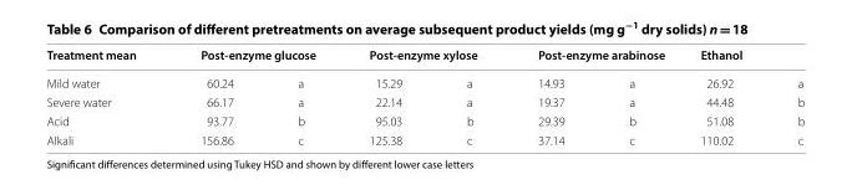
<table><thead><tr><td rowspan="2">Treatment mean Mild water</td><td colspan="2">Post‑enzyme glucose</td><td colspan="2">Post‑enzyme xylose</td><td colspan="2">Post‑enzyme arabinose</td><td colspan="2">Ethanol</td></tr><tr><td>60.24</td><td>a</td><td>15.29</td><td>a</td><td>14.93</td><td>a</td><td>26.92</td><td>a</td></tr></thead><tbody><tr><td>Severe water</td><td>66.17</td><td>a</td><td>22.14</td><td>a</td><td>19.37</td><td>a</td><td>44.48</td><td>b</td></tr><tr><td>Acid</td><td>93.77</td><td>b</td><td>95.03</td><td>b</td><td>29.39</td><td>b</td><td>51.08</td><td>b</td></tr><tr><td>Alkali</td><td>156.86</td><td>c</td><td>125.38</td><td>c</td><td>37.14</td><td>c</td><td>110.02</td><td>c</td></tr></tbody></table>